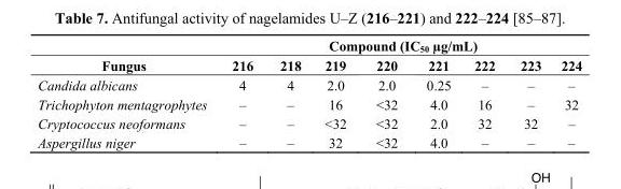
<table><thead><tr><td rowspan="2">Fungus</td><td colspan="8">Compound (IC<sub>50</sub> µg/mL)</td></tr><tr><td>216</td><td>218</td><td>219</td><td>220</td><td>221</td><td>222</td><td>223</td><td>224</td></tr></thead><tbody><tr><td>Candida albicans</td><td>4</td><td>4</td><td>2.0</td><td>2.0</td><td>0.25</td><td>–</td><td>–</td><td>–</td></tr><tr><td>Trichophyton mentagrophytes</td><td>–</td><td>–</td><td>16</td><td>&lt;32</td><td>4.0</td><td>16</td><td>–</td><td>32</td></tr><tr><td>Cryptococcus neoformans</td><td>–</td><td>–</td><td>&lt;32</td><td>&lt;32</td><td>2.0</td><td>32</td><td>32</td><td>–</td></tr><tr><td>Aspergillus niger</td><td>–</td><td>–</td><td>32</td><td>&lt;32</td><td>4.0</td><td>–</td><td>–</td><td>–</td></tr></tbody></table>